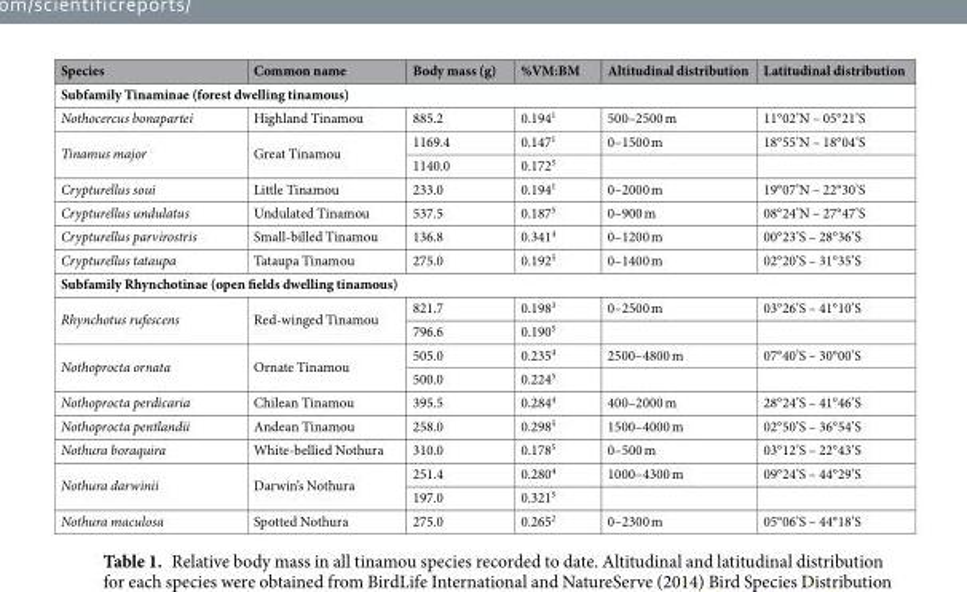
<table><thead><tr><td>Species</td><td>Common name</td><td>Body mass (g)</td><td>%VM:BM</td><td>Altitudinal distribution</td><td>Latitudinal distribution</td></tr></thead><tbody><tr><td colspan="6">Subfamily Tinaminae (forest dwelling tinamous)</td></tr><tr><td>Nothocercus bonapartei</td><td>Highland Tinamou</td><td>885.2</td><td>0.194<sup>1</sup></td><td>500–2500 m</td><td>11°02’N – 05°21’S</td></tr><tr><td rowspan="2">Tinamus major</td><td rowspan="2">Great Tinamou</td><td>1169.4</td><td>0.147<sup>1</sup></td><td>0–1500 m</td><td>18°55’N – 18°04’S</td></tr><tr><td>1140.0</td><td>0.172<sup>5</sup></td><td></td><td></td></tr><tr><td>Crypturellus soui</td><td>Little Tinamou</td><td>233.0</td><td>0.194<sup>1</sup></td><td>0–2000 m</td><td>19°07’N – 22°30’S</td></tr><tr><td>Crypturellus undulatus</td><td>Undulated Tinamou</td><td>537.5</td><td>0.187<sup>5</sup></td><td>0–900 m</td><td>08°24’N – 27°47’S</td></tr><tr><td>Crypturellus parvirostris</td><td>Small-billed Tinamou</td><td>136.8</td><td>0.341<sup>4</sup></td><td>0–1200 m</td><td>00°23’S – 28°36’S</td></tr><tr><td>Crypturellus tataupa</td><td>Tataupa Tinamou</td><td>275.0</td><td>0.192<sup>5</sup></td><td>0–1400 m</td><td>02°20’S – 31°35’S</td></tr><tr><td colspan="6">Subfamily Rhynchotinae (open fields dwelling tinamous)</td></tr><tr><td rowspan="2">Rhynchotus rufescens</td><td rowspan="2">Red-winged Tinamou</td><td>821.7</td><td>0.198<sup>3</sup></td><td>0–2500 m</td><td>03°26’S – 41°10’S</td></tr><tr><td>796.6</td><td>0.190<sup>5</sup></td><td></td><td></td></tr><tr><td rowspan="2">Nothoprocta ornata</td><td rowspan="2">Ornate Tinamou</td><td>505.0</td><td>0.235<sup>4</sup></td><td>2500–4800 m</td><td>07°40’S – 30°00’S</td></tr><tr><td>500.0</td><td>0.224<sup>5</sup></td><td></td><td></td></tr><tr><td>Nothoprocta perdicaria</td><td>Chilean Tinamou</td><td>395.5</td><td>0.284<sup>4</sup></td><td>400–2000 m</td><td>28°24’S – 41°46’S</td></tr><tr><td>Nothoprocta pentlandii</td><td>Andean Tinamou</td><td>258.0</td><td>0.298<sup>5</sup></td><td>1500–4000 m</td><td>02°50’S – 36°54’S</td></tr><tr><td>Nothura boraquira</td><td>White-bellied Nothura</td><td>310.0</td><td>0.178<sup>5</sup></td><td>0–500 m</td><td>03°12’S – 22°43’S</td></tr><tr><td rowspan="2">Nothura darwinii</td><td rowspan="2">Darwin’s Nothura</td><td>251.4</td><td>0.280<sup>4</sup></td><td>1000–4300 m</td><td>09°24’S – 44°29’S</td></tr><tr><td>197.0</td><td>0.321<sup>5</sup></td><td></td><td></td></tr><tr><td>Nothura maculosa</td><td>Spotted Nothura</td><td>275.0</td><td>0.265<sup>2</sup></td><td>0–2300 m</td><td>05°06’S – 44°18’S</td></tr></tbody></table>